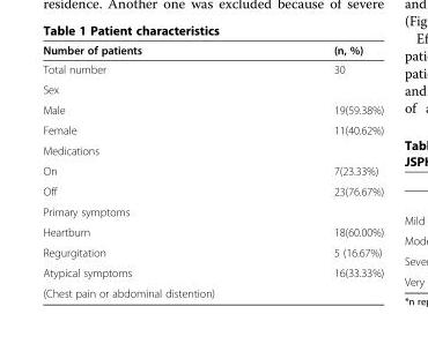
<table><thead><tr><td>Number of patients</td><td>(n, %)</td></tr></thead><tbody><tr><td>Total number</td><td>30</td></tr><tr><td colspan="2">Sex</td></tr><tr><td>Male</td><td>19(59.38%)</td></tr><tr><td>Female</td><td>11(40.62%)</td></tr><tr><td colspan="2">Medications</td></tr><tr><td>On</td><td>7(23.33%)</td></tr><tr><td>Off</td><td>23(76.67%)</td></tr><tr><td colspan="2">Primary symptoms</td></tr><tr><td>Heartburn</td><td>18(60.00%)</td></tr><tr><td>Regurgitation</td><td>5 (16.67%)</td></tr><tr><td>Atypical symptoms</td><td>16(33.33%)</td></tr><tr><td>(Chest pain or abdominal distention)</td><td></td></tr></tbody></table>